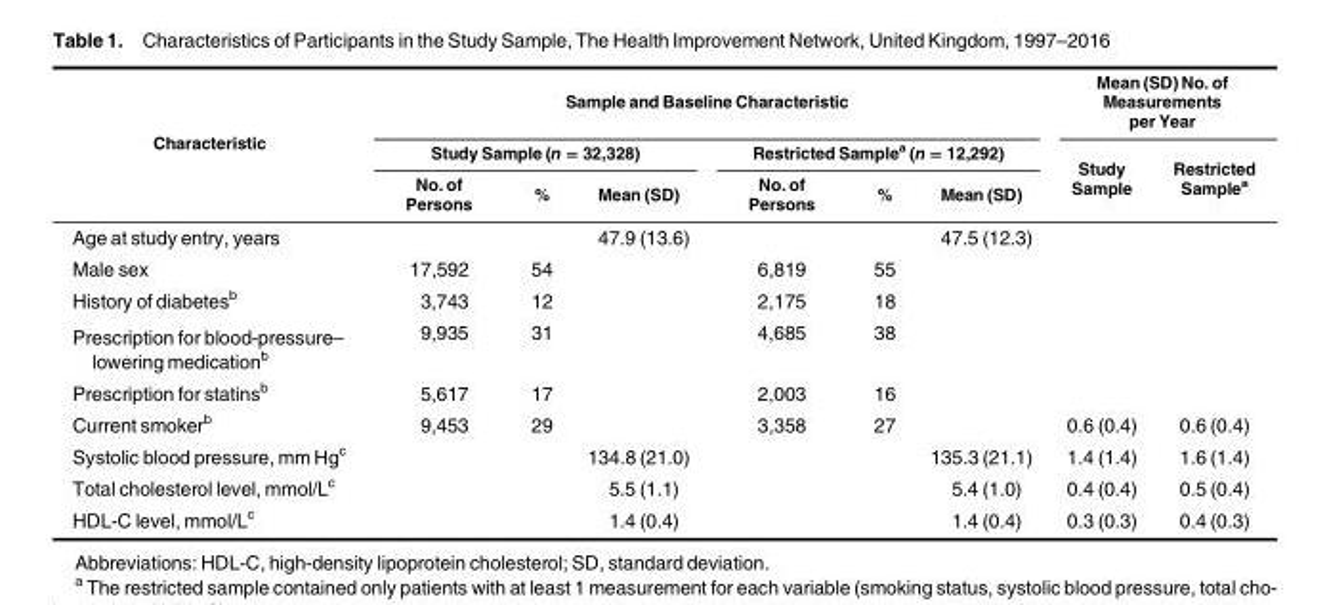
<table><thead><tr><td rowspan="3">Characteristic</td><td colspan="6">Sample and Baseline Characteristic</td><td colspan="2">Mean (SD) No. of Measurements per Year</td></tr><tr><td colspan="3">Study Sample (n = 32,328)</td><td colspan="3">Restricted Sample<sup>a</sup> (n = 12,292)</td><td rowspan="2">Study Sample</td><td rowspan="2">Restricted Sample<sup>a</sup></td></tr><tr><td>No. of Persons</td><td>%</td><td>Mean (SD)</td><td>No. of Persons</td><td>%</td><td>Mean (SD)</td></tr></thead><tbody><tr><td>Age at study entry, years</td><td></td><td></td><td>47.9 (13.6)</td><td></td><td></td><td>47.5 (12.3)</td><td></td><td></td></tr><tr><td>Male sex</td><td>17,592</td><td>54</td><td></td><td>6,819</td><td>55</td><td></td><td></td><td></td></tr><tr><td>History of diabetes<sup>b</sup></td><td>3,743</td><td>12</td><td></td><td>2,175</td><td>18</td><td></td><td></td><td></td></tr><tr><td>Prescription for blood-pressure– lowering medication<sup>b</sup></td><td>9,935</td><td>31</td><td></td><td>4,685</td><td>38</td><td></td><td></td><td></td></tr><tr><td>Prescription for statins<sup>b</sup></td><td>5,617</td><td>17</td><td></td><td>2,003</td><td>16</td><td></td><td></td><td></td></tr><tr><td>Current smoker<sup>b</sup></td><td>9,453</td><td>29</td><td></td><td>3,358</td><td>27</td><td></td><td>0.6 (0.4)</td><td>0.6 (0.4)</td></tr><tr><td>Systolic blood pressure, mm Hg<sup>c</sup></td><td></td><td></td><td>134.8 (21.0)</td><td></td><td></td><td>135.3 (21.1)</td><td>1.4 (1.4)</td><td>1.6 (1.4)</td></tr><tr><td>Total cholesterol level, mmol/L<sup>c</sup></td><td></td><td></td><td>5.5 (1.1)</td><td></td><td></td><td>5.4 (1.0)</td><td>0.4 (0.4)</td><td>0.5 (0.4)</td></tr><tr><td>HDL-C level, mmol/L<sup>c</sup></td><td></td><td></td><td>1.4 (0.4)</td><td></td><td></td><td>1.4 (0.4)</td><td>0.3 (0.3)</td><td>0.4 (0.3)</td></tr></tbody></table>